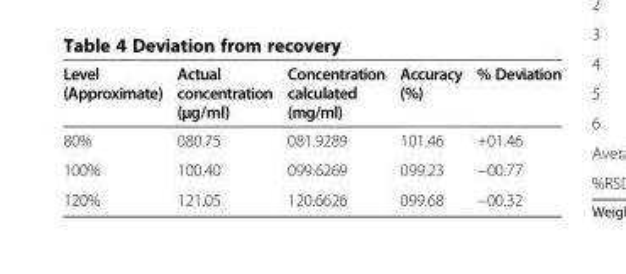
<table><thead><tr><td>Level (Approximate)</td><td>Actual concentration (μg/ml)</td><td>Concentration calculated (mg/ml)</td><td>Accuracy (%)</td><td>% Deviation</td></tr></thead><tbody><tr><td>80%</td><td>080.75</td><td>081.9289</td><td>101.46</td><td>+01.46</td></tr><tr><td>100%</td><td>100.40</td><td>099.6269</td><td>099.23</td><td>−00.77</td></tr><tr><td>120%</td><td>121.05</td><td>120.6626</td><td>099.68</td><td>−00.32</td></tr></tbody></table>